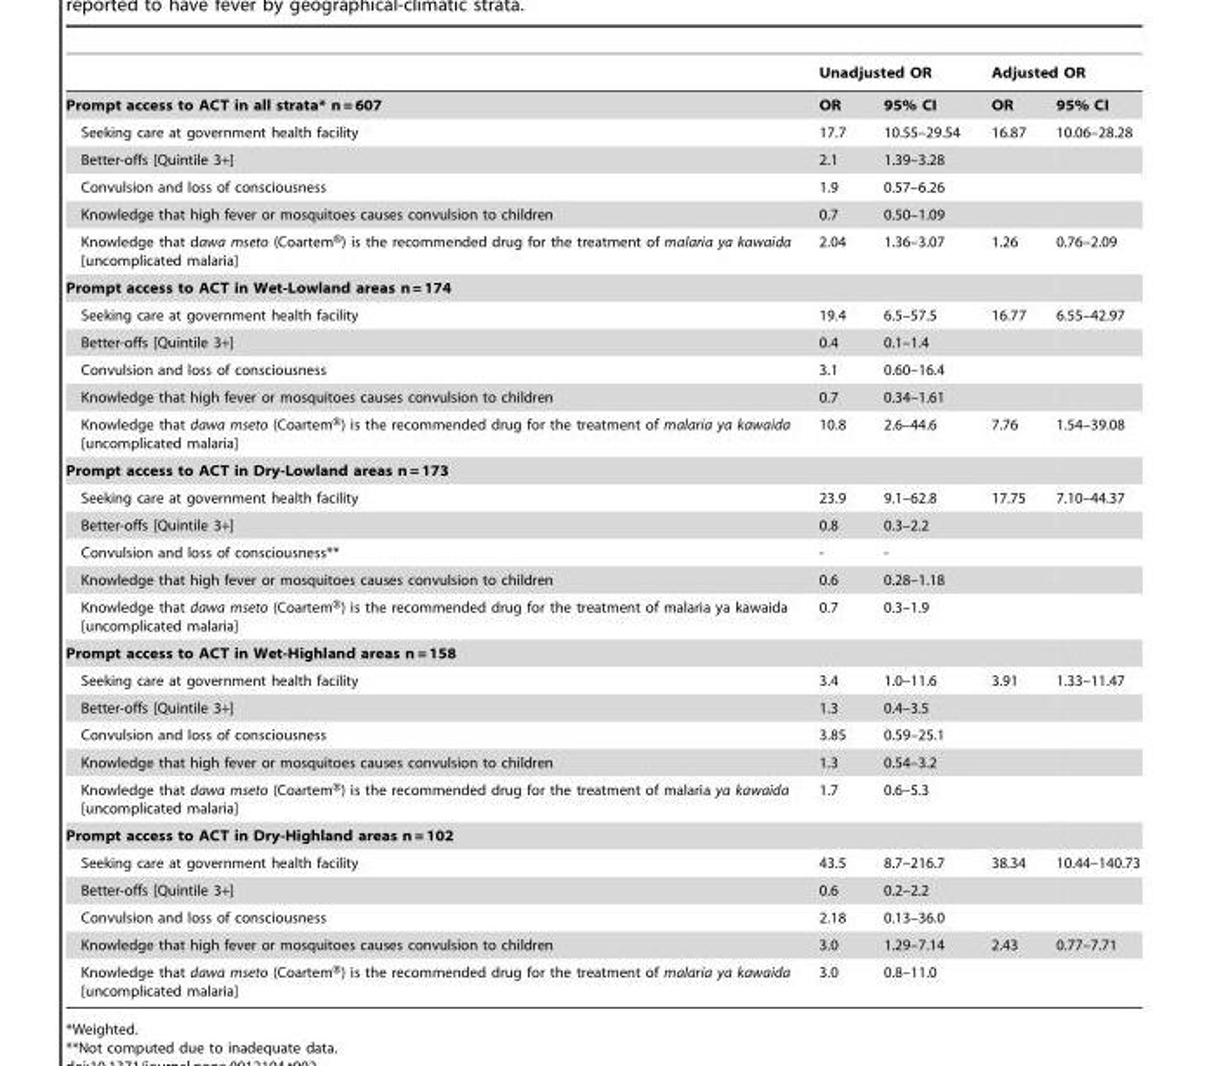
<table><thead><tr><td rowspan="2">Prompt access to ACT in all strata* n = 607</td><td colspan="2">Unadjusted OR</td><td colspan="2">Adjusted OR</td></tr><tr><td>OR</td><td>95% CI</td><td>OR</td><td>95% CI</td></tr></thead><tbody><tr><td>Seeking care at government health facility</td><td>17.7</td><td>10.55–29.54</td><td>16.87</td><td>10.06–28.28</td></tr><tr><td>Better-offs [Quintile 3+]</td><td>2.1</td><td>1.39–3.28</td><td></td><td></td></tr><tr><td>Convulsion and loss of consciousness</td><td>1.9</td><td>0.57–6.26</td><td></td><td></td></tr><tr><td>Knowledge that high fever or mosquitoes causes convulsion to children</td><td>0.7</td><td>0.50–1.09</td><td></td><td></td></tr><tr><td>Knowledge that dawa mseto (Coartem®) is the recommended drug for the treatment of malaria ya kawaida [uncomplicated malaria]</td><td>2.04</td><td>1.36–3.07</td><td>1.26</td><td>0.76–2.09</td></tr><tr><td colspan="5">Prompt access to ACT in Wet-Lowland areas n = 174</td></tr><tr><td>Seeking care at government health facility</td><td>19.4</td><td>6.5–57.5</td><td>16.77</td><td>6.55–42.97</td></tr><tr><td>Better-offs [Quintile 3+]</td><td>0.4</td><td>0.1–1.4</td><td></td><td></td></tr><tr><td>Convulsion and loss of consciousness</td><td>3.1</td><td>0.60–16.4</td><td></td><td></td></tr><tr><td>Knowledge that high fever or mosquitoes causes convulsion to children</td><td>0.7</td><td>0.34–1.61</td><td></td><td></td></tr><tr><td>Knowledge that dawa mseto (Coartem®) is the recommended drug for the treatment of malaria ya kawaida [uncomplicated malaria]</td><td>10.8</td><td>2.6–44.6</td><td>7.76</td><td>1.54–39.08</td></tr><tr><td colspan="5">Prompt access to ACT in Dry-Lowland areas n = 173</td></tr><tr><td>Seeking care at government health facility</td><td>23.9</td><td>9.1–62.8</td><td>17.75</td><td>7.10–44.37</td></tr><tr><td>Better-offs [Quintile 3+]</td><td>0.8</td><td>0.3–2.2</td><td></td><td></td></tr><tr><td>Convulsion and loss of consciousness**</td><td>-</td><td>-</td><td></td><td></td></tr><tr><td>Knowledge that high fever or mosquitoes causes convulsion to children</td><td>0.6</td><td>0.28–1.18</td><td></td><td></td></tr><tr><td>Knowledge that dawa mseto (Coartem®) is the recommended drug for the treatment of malaria ya kawaida [uncomplicated malaria]</td><td>0.7</td><td>0.3–1.9</td><td></td><td></td></tr><tr><td colspan="5">Prompt access to ACT in Wet-Highland areas n = 158</td></tr><tr><td>Seeking care at government health facility</td><td>3.4</td><td>1.0–11.6</td><td>3.91</td><td>1.33–11.47</td></tr><tr><td>Better-offs [Quintile 3+]</td><td>1.3</td><td>0.4–3.5</td><td></td><td></td></tr><tr><td>Convulsion and loss of consciousness</td><td>3.85</td><td>0.59–25.1</td><td></td><td></td></tr><tr><td>Knowledge that high fever or mosquitoes causes convulsion to children</td><td>1.3</td><td>0.54–3.2</td><td></td><td></td></tr><tr><td>Knowledge that dawa mseto (Coartem®) is the recommended drug for the treatment of malaria ya kawaida [uncomplicated malaria]</td><td>1.7</td><td>0.6–5.3</td><td></td><td></td></tr><tr><td colspan="5">Prompt access to ACT in Dry-Highland areas n = 102</td></tr><tr><td>Seeking care at government health facility</td><td>43.5</td><td>8.7–216.7</td><td>38.34</td><td>10.44–140.73</td></tr><tr><td>Better-offs [Quintile 3+]</td><td>0.6</td><td>0.2–2.2</td><td></td><td></td></tr><tr><td>Convulsion and loss of consciousness</td><td>2.18</td><td>0.13–36.0</td><td></td><td></td></tr><tr><td>Knowledge that high fever or mosquitoes causes convulsion to children</td><td>3.0</td><td>1.29–7.14</td><td>2.43</td><td>0.77–7.71</td></tr><tr><td>Knowledge that dawa mseto (Coartem®) is the recommended drug for the treatment of malaria ya kawaida [uncomplicated malaria]</td><td>3.0</td><td>0.8–11.0</td><td></td><td></td></tr></tbody></table>